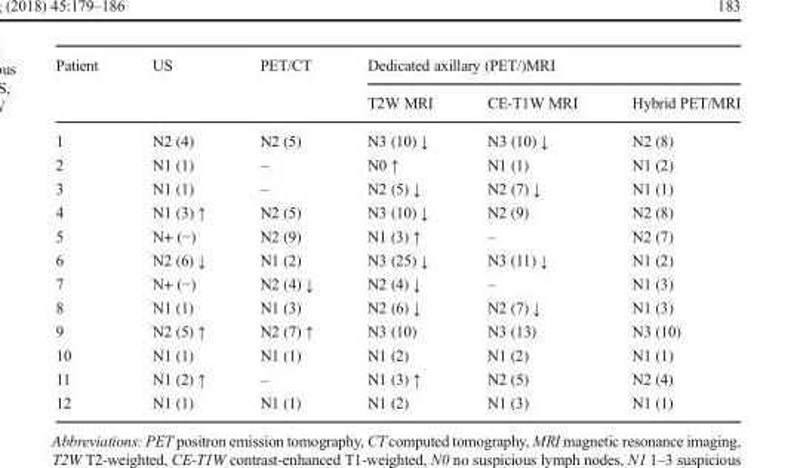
<table><thead><tr><td rowspan="2">Patient</td><td rowspan="2">US</td><td rowspan="2">PET/CT</td><td colspan="3">Dedicated axillary (PET/)MRI</td></tr><tr><td>T2W MRI</td><td>CE-T1W MRI</td><td>Hybrid PET/MRI</td></tr></thead><tbody><tr><td>1</td><td>N2 (4)</td><td>N2 (5)</td><td>N3 (10) ↓</td><td>N3 (10) ↓</td><td>N2 (8)</td></tr><tr><td>2</td><td>N1 (1)</td><td>–</td><td>N0 ↑</td><td>N1 (1)</td><td>N1 (2)</td></tr><tr><td>3</td><td>N1 (1)</td><td>–</td><td>N2 (5) ↓</td><td>N2 (7) ↓</td><td>N1 (1)</td></tr><tr><td>4</td><td>N1 (3) ↑</td><td>N2 (5)</td><td>N3 (10) ↓</td><td>N2 (9)</td><td>N2 (8)</td></tr><tr><td>5</td><td>N+ (−)</td><td>N2 (9)</td><td>N1 (3) ↑</td><td>–</td><td>N2 (7)</td></tr><tr><td>6</td><td>N2 (6) ↓</td><td>N1 (2)</td><td>N3 (25) ↓</td><td>N3 (11) ↓</td><td>N1 (2)</td></tr><tr><td>7</td><td>N+ (−)</td><td>N2 (4) ↓</td><td>N2 (4) ↓</td><td>–</td><td>N1 (3)</td></tr><tr><td>8</td><td>N1 (1)</td><td>N1 (3)</td><td>N2 (6) ↓</td><td>N2 (7) ↓</td><td>N1 (3)</td></tr><tr><td>9</td><td>N2 (5) ↑</td><td>N2 (7) ↑</td><td>N3 (10)</td><td>N3 (13)</td><td>N3 (10)</td></tr><tr><td>10</td><td>N1 (1)</td><td>N1 (1)</td><td>N1 (2)</td><td>N1 (2)</td><td>N1 (1)</td></tr><tr><td>11</td><td>N1 (2) ↑</td><td>–</td><td>N1 (3) ↑</td><td>N2 (5)</td><td>N2 (4)</td></tr><tr><td>12</td><td>N1 (1)</td><td>N1 (1)</td><td>N1 (2)</td><td>N1 (3)</td><td>N1 (1)</td></tr></tbody></table>